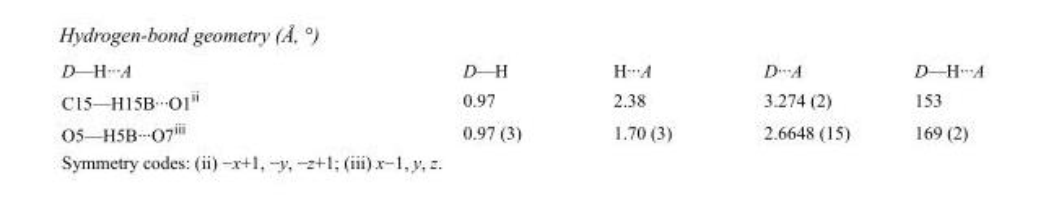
<table><tbody><tr><td>D—H···A</td><td>D—H</td><td>H···A</td><td>D···A</td><td>D—H···A</td></tr><tr><td>C15—H15B···O1<sup>ii</sup></td><td>0.97</td><td>2.38</td><td>3.274 (2)</td><td>153</td></tr><tr><td>O5—H5B···O7<sup>iii</sup></td><td>0.97 (3)</td><td>1.70 (3)</td><td>2.6648 (15)</td><td>169 (2)</td></tr></tbody></table>